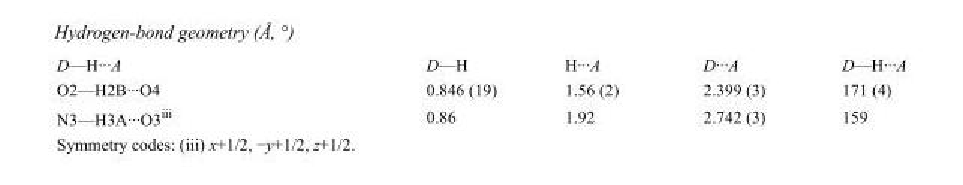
<table><tbody><tr><td>D—H···A</td><td>D—H</td><td>H···A</td><td>D···A</td><td>D—H···A</td></tr><tr><td>O2—H2B···O4</td><td>0.846 (19)</td><td>1.56 (2)</td><td>2.399 (3)</td><td>171 (4)</td></tr><tr><td>N3—H3A···O3<sup>iii</sup></td><td>0.86</td><td>1.92</td><td>2.742 (3)</td><td>159</td></tr></tbody></table>